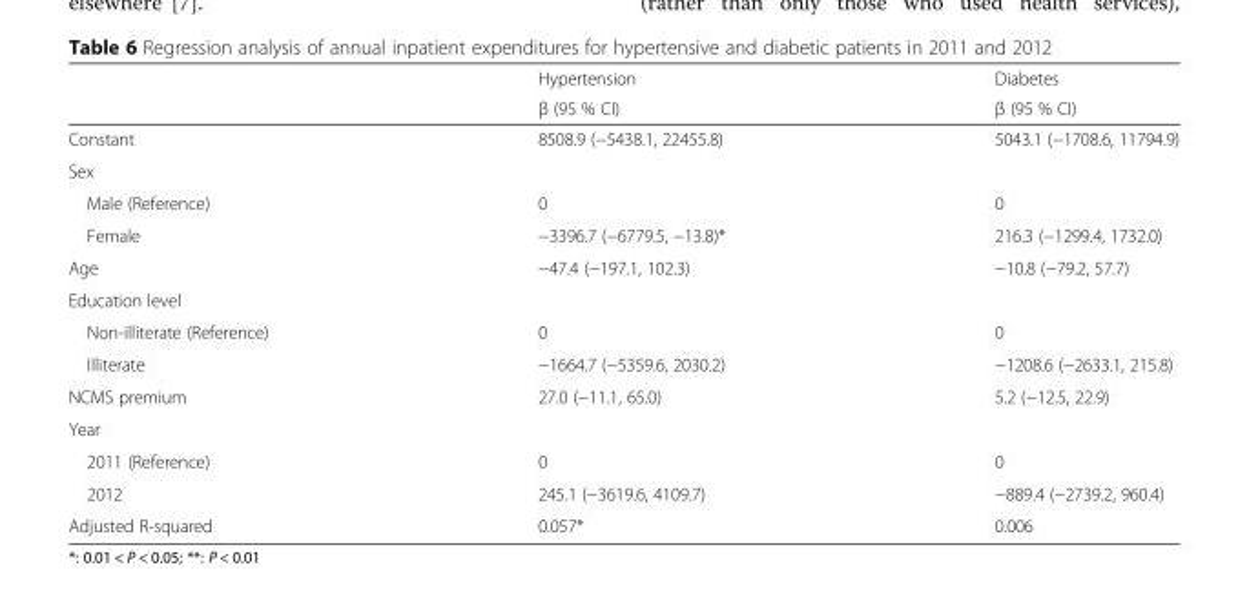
<table><thead><tr><td rowspan="2"></td><td rowspan="2">Hypertension β (95 % CI)</td><td rowspan="2">Diabetes β (95 % CI)</td></tr><tr></tr></thead><tbody><tr><td>Constant</td><td>8508.9 (−5438.1, 22455.8)</td><td>5043.1 (−1708.6, 11794.9)</td></tr><tr><td colspan="3">Sex</td></tr><tr><td>Male (Reference)</td><td>0</td><td>0</td></tr><tr><td>Female</td><td>−3396.7 (−6779.5, −13.8)*</td><td>216.3 (−1299.4, 1732.0)</td></tr><tr><td>Age</td><td>−47.4 (−197.1, 102.3)</td><td>−10.8 (−79.2, 57.7)</td></tr><tr><td colspan="3">Education level</td></tr><tr><td>Non-illiterate (Reference)</td><td>0</td><td>0</td></tr><tr><td>Illiterate</td><td>−1664.7 (−5359.6, 2030.2)</td><td>−1208.6 (−2633.1, 215.8)</td></tr><tr><td>NCMS premium</td><td>27.0 (−11.1, 65.0)</td><td>5.2 (−12.5, 22.9)</td></tr><tr><td colspan="3">Year</td></tr><tr><td>2011 (Reference)</td><td>0</td><td>0</td></tr><tr><td>2012</td><td>245.1 (−3619.6, 4109.7)</td><td>−889.4 (−2739.2, 960.4)</td></tr><tr><td>Adjusted R-squared</td><td>0.057*</td><td>0.006</td></tr></tbody></table>